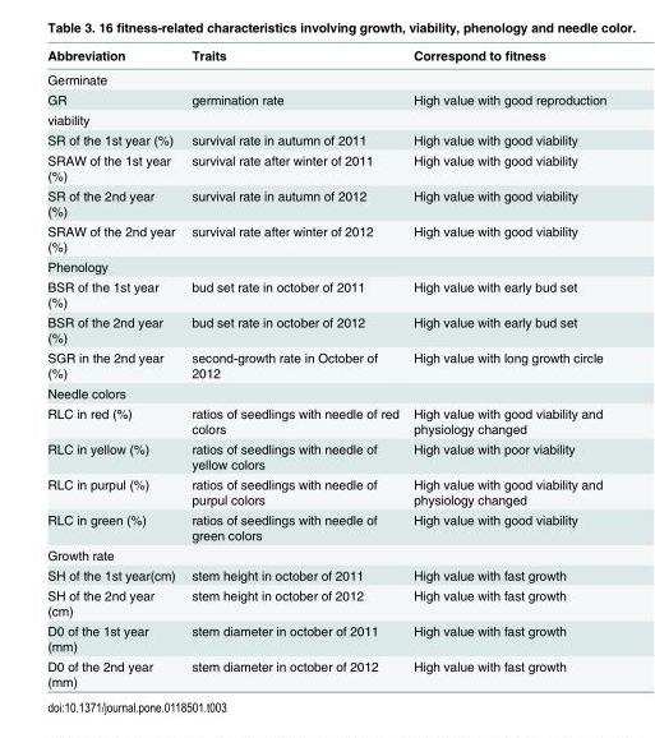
<table><thead><tr><td>Abbreviation</td><td>Traits</td><td>Correspond to fitness</td></tr></thead><tbody><tr><td colspan="3">Germinate</td></tr><tr><td>GR</td><td>germination rate</td><td>High value with good reproduction</td></tr><tr><td colspan="3">viability</td></tr><tr><td>SR of the 1st year (%)</td><td>survival rate in autumn of 2011</td><td>High value with good viability</td></tr><tr><td>SRAW of the 1st year (%)</td><td>survival rate after winter of 2011</td><td>High value with good viability</td></tr><tr><td>SR of the 2nd year (%)</td><td>survival rate in autumn of 2012</td><td>High value with good viability</td></tr><tr><td>SRAW of the 2nd year (%)</td><td>survival rate after winter of 2012</td><td>High value with good viability</td></tr><tr><td colspan="3">Phenology</td></tr><tr><td>BSR of the 1st year (%)</td><td>bud set rate in october of 2011</td><td>High value with early bud set</td></tr><tr><td>BSR of the 2nd year (%)</td><td>bud set rate in october of 2012</td><td>High value with early bud set</td></tr><tr><td>SGR in the 2nd year (%)</td><td>second-growth rate in October of 2012</td><td>High value with long growth circle</td></tr><tr><td colspan="3">Needle colors</td></tr><tr><td>RLC in red (%)</td><td>ratios of seedlings with needle of red colors</td><td>High value with good viability and physiology changed</td></tr><tr><td>RLC in yellow (%)</td><td>ratios of seedlings with needle of yellow colors</td><td>High value with poor viability</td></tr><tr><td>RLC in purpul (%)</td><td>ratios of seedlings with needle of purpul colors</td><td>High value with good viability and physiology changed</td></tr><tr><td>RLC in green (%)</td><td>ratios of seedlings with needle of green colors</td><td>High value with good viability</td></tr><tr><td colspan="3">Growth rate</td></tr><tr><td>SH of the 1st year(cm)</td><td>stem height in october of 2011</td><td>High value with fast growth</td></tr><tr><td>SH of the 2nd year (cm)</td><td>stem height in october of 2012</td><td>High value with fast growth</td></tr><tr><td>D0 of the 1st year (mm)</td><td>stem diameter in october of 2011</td><td>High value with fast growth</td></tr><tr><td>D0 of the 2nd year (mm)</td><td>stem diameter in october of 2012</td><td>High value with fast growth</td></tr></tbody></table>